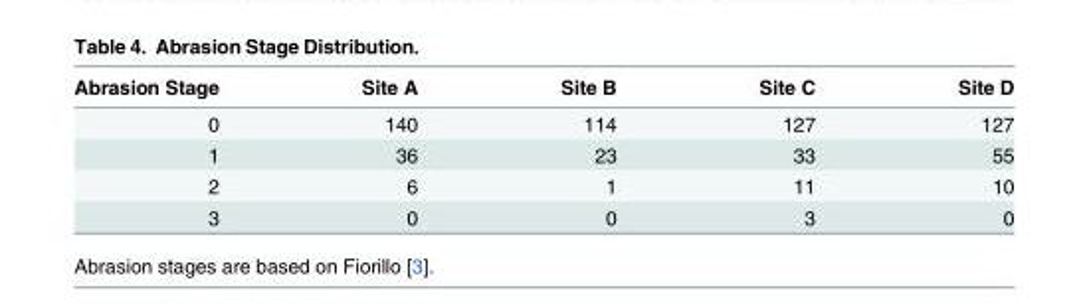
<table><thead><tr><td>Abrasion Stage</td><td>Site A</td><td>Site B</td><td>Site C</td><td>Site D</td></tr></thead><tbody><tr><td>0</td><td>140</td><td>114</td><td>127</td><td>127</td></tr><tr><td>1</td><td>36</td><td>23</td><td>33</td><td>55</td></tr><tr><td>2</td><td>6</td><td>1</td><td>11</td><td>10</td></tr><tr><td>3</td><td>0</td><td>0</td><td>3</td><td>0</td></tr></tbody></table>